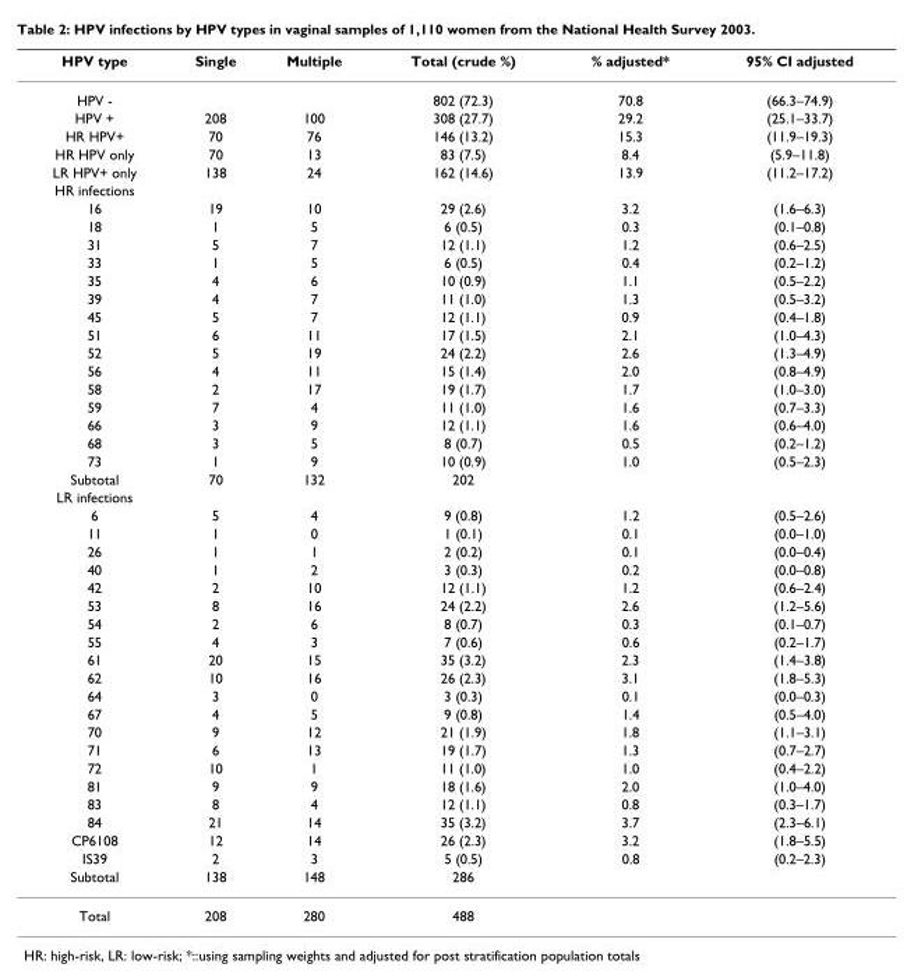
<table><thead><tr><td>HPV type</td><td>Single</td><td>Multiple</td><td>Total (crude %)</td><td>% adjusted*</td><td>95% CI adjusted</td></tr></thead><tbody><tr><td>HPV -</td><td></td><td></td><td>802 (72.3)</td><td>70.8</td><td>(66.3–74.9)</td></tr><tr><td>HPV +</td><td>208</td><td>100</td><td>308 (27.7)</td><td>29.2</td><td>(25.1–33.7)</td></tr><tr><td>HR HPV+</td><td>70</td><td>76</td><td>146 (13.2)</td><td>15.3</td><td>(11.9–19.3)</td></tr><tr><td>HR HPV only</td><td>70</td><td>13</td><td>83 (7.5)</td><td>8.4</td><td>(5.9–11.8)</td></tr><tr><td>LR HPV+ only</td><td>138</td><td>24</td><td>162 (14.6)</td><td>13.9</td><td>(11.2–17.2)</td></tr><tr><td colspan="6">HR infections</td></tr><tr><td>16</td><td>19</td><td>10</td><td>29 (2.6)</td><td>3.2</td><td>(1.6–6.3)</td></tr><tr><td>18</td><td>1</td><td>5</td><td>6 (0.5)</td><td>0.3</td><td>(0.1–0.8)</td></tr><tr><td>31</td><td>5</td><td>7</td><td>12 (1.1)</td><td>1.2</td><td>(0.6–2.5)</td></tr><tr><td>33</td><td>1</td><td>5</td><td>6 (0.5)</td><td>0.4</td><td>(0.2–1.2)</td></tr><tr><td>35</td><td>4</td><td>6</td><td>10 (0.9)</td><td>1.1</td><td>(0.5–2.2)</td></tr><tr><td>39</td><td>4</td><td>7</td><td>11 (1.0)</td><td>1.3</td><td>(0.5–3.2)</td></tr><tr><td>45</td><td>5</td><td>7</td><td>12 (1.1)</td><td>0.9</td><td>(0.4–1.8)</td></tr><tr><td>51</td><td>6</td><td>11</td><td>17 (1.5)</td><td>2.1</td><td>(1.0–4.3)</td></tr><tr><td>52</td><td>5</td><td>19</td><td>24 (2.2)</td><td>2.6</td><td>(1.3–4.9)</td></tr><tr><td>56</td><td>4</td><td>11</td><td>15 (1.4)</td><td>2.0</td><td>(0.8–4.9)</td></tr><tr><td>58</td><td>2</td><td>17</td><td>19 (1.7)</td><td>1.7</td><td>(1.0–3.0)</td></tr><tr><td>59</td><td>7</td><td>4</td><td>11 (1.0)</td><td>1.6</td><td>(0.7–3.3)</td></tr><tr><td>66</td><td>3</td><td>9</td><td>12 (1.1)</td><td>1.6</td><td>(0.6–4.0)</td></tr><tr><td>68</td><td>3</td><td>5</td><td>8 (0.7)</td><td>0.5</td><td>(0.2–1.2)</td></tr><tr><td>73</td><td>1</td><td>9</td><td>10 (0.9)</td><td>1.0</td><td>(0.5–2.3)</td></tr><tr><td>Subtotal</td><td>70</td><td>132</td><td>202</td><td></td><td></td></tr><tr><td colspan="6">LR infections</td></tr><tr><td>6</td><td>5</td><td>4</td><td>9 (0.8)</td><td>1.2</td><td>(0.5–2.6)</td></tr><tr><td>11</td><td>1</td><td>0</td><td>1 (0.1)</td><td>0.1</td><td>(0.0–1.0)</td></tr><tr><td>26</td><td>1</td><td>1</td><td>2 (0.2)</td><td>0.1</td><td>(0.0–0.4)</td></tr><tr><td>40</td><td>1</td><td>2</td><td>3 (0.3)</td><td>0.2</td><td>(0.0–0.8)</td></tr><tr><td>42</td><td>2</td><td>10</td><td>12 (1.1)</td><td>1.2</td><td>(0.6–2.4)</td></tr><tr><td>53</td><td>8</td><td>16</td><td>24 (2.2)</td><td>2.6</td><td>(1.2–5.6)</td></tr><tr><td>54</td><td>2</td><td>6</td><td>8 (0.7)</td><td>0.3</td><td>(0.1–0.7)</td></tr><tr><td>55</td><td>4</td><td>3</td><td>7 (0.6)</td><td>0.6</td><td>(0.2–1.7)</td></tr><tr><td>61</td><td>20</td><td>15</td><td>35 (3.2)</td><td>2.3</td><td>(1.4–3.8)</td></tr><tr><td>62</td><td>10</td><td>16</td><td>26 (2.3)</td><td>3.1</td><td>(1.8–5.3)</td></tr><tr><td>64</td><td>3</td><td>0</td><td>3 (0.3)</td><td>0.1</td><td>(0.0–0.3)</td></tr><tr><td>67</td><td>4</td><td>5</td><td>9 (0.8)</td><td>1.4</td><td>(0.5–4.0)</td></tr><tr><td>70</td><td>9</td><td>12</td><td>21 (1.9)</td><td>1.8</td><td>(1.1–3.1)</td></tr><tr><td>71</td><td>6</td><td>13</td><td>19 (1.7)</td><td>1.3</td><td>(0.7–2.7)</td></tr><tr><td>72</td><td>10</td><td>1</td><td>11 (1.0)</td><td>1.0</td><td>(0.4–2.2)</td></tr><tr><td>81</td><td>9</td><td>9</td><td>18 (1.6)</td><td>2.0</td><td>(1.0–4.0)</td></tr><tr><td>83</td><td>8</td><td>4</td><td>12 (1.1)</td><td>0.8</td><td>(0.3–1.7)</td></tr><tr><td>84</td><td>21</td><td>14</td><td>35 (3.2)</td><td>3.7</td><td>(2.3–6.1)</td></tr><tr><td>CP6108</td><td>12</td><td>14</td><td>26 (2.3)</td><td>3.2</td><td>(1.8–5.5)</td></tr><tr><td>IS39</td><td>2</td><td>3</td><td>5 (0.5)</td><td>0.8</td><td>(0.2–2.3)</td></tr><tr><td>Subtotal</td><td>138</td><td>148</td><td>286</td><td></td><td></td></tr><tr><td>Total</td><td>208</td><td>280</td><td>488</td><td></td><td></td></tr></tbody></table>